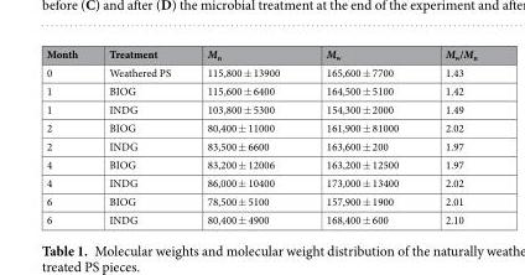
<table><thead><tr><td>Month</td><td>Treatment</td><td>M<sub>n</sub></td><td>M<sub>w</sub></td><td>M<sub>w</sub>/M<sub>n</sub></td></tr></thead><tbody><tr><td>0</td><td>Weathered PS</td><td>115,800 ± 13900</td><td>165,600 ± 7700</td><td>1.43</td></tr><tr><td>1</td><td>BIOG</td><td>115,600 ± 6400</td><td>164,500 ± 5100</td><td>1.42</td></tr><tr><td>1</td><td>INDG</td><td>103,800 ± 5300</td><td>154,300 ± 2000</td><td>1.49</td></tr><tr><td>2</td><td>BIOG</td><td>80,400 ± 11000</td><td>161,900 ± 81000</td><td>2.02</td></tr><tr><td>2</td><td>INDG</td><td>83,500 ± 6600</td><td>163,600 ± 200</td><td>1.97</td></tr><tr><td>4</td><td>BIOG</td><td>83,200 ± 12006</td><td>163,200 ± 12500</td><td>1.97</td></tr><tr><td>4</td><td>INDG</td><td>86,000 ± 10400</td><td>173,000 ± 13400</td><td>2.02</td></tr><tr><td>6</td><td>BIOG</td><td>78,500 ± 5100</td><td>157,900 ± 1900</td><td>2.01</td></tr><tr><td>6</td><td>INDG</td><td>80,400 ± 4900</td><td>168,400 ± 600</td><td>2.10</td></tr></tbody></table>